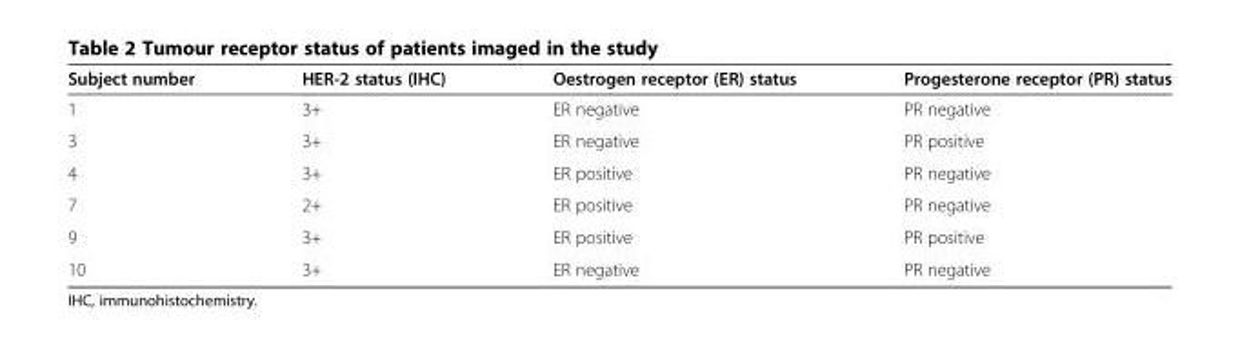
<table><thead><tr><td>Subject number</td><td>HER-2 status (IHC)</td><td>Oestrogen receptor (ER) status</td><td>Progesterone receptor (PR) status</td></tr></thead><tbody><tr><td>1</td><td>3+</td><td>ER negative</td><td>PR negative</td></tr><tr><td>3</td><td>3+</td><td>ER negative</td><td>PR positive</td></tr><tr><td>4</td><td>3+</td><td>ER positive</td><td>PR negative</td></tr><tr><td>7</td><td>2+</td><td>ER positive</td><td>PR negative</td></tr><tr><td>9</td><td>3+</td><td>ER positive</td><td>PR positive</td></tr><tr><td>10</td><td>3+</td><td>ER negative</td><td>PR negative</td></tr></tbody></table>